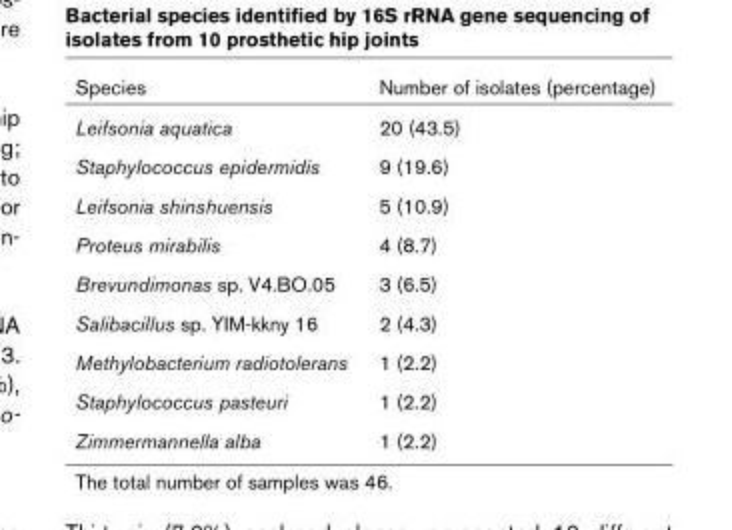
<table><thead><tr><td>Species</td><td>Number of isolates (percentage)</td></tr></thead><tbody><tr><td>Leifsonia aquatica</td><td>20 (43.5)</td></tr><tr><td>Staphylococcus epidermidis</td><td>9 (19.6)</td></tr><tr><td>Leifsonia shinshuensis</td><td>5 (10.9)</td></tr><tr><td>Proteus mirabilis</td><td>4 (8.7)</td></tr><tr><td>Brevundimonas sp. V4.BO.05</td><td>3 (6.5)</td></tr><tr><td>Salibacillus sp. YIM-kkny 16</td><td>2 (4.3)</td></tr><tr><td>Methylobacterium radiotolerans</td><td>1 (2.2)</td></tr><tr><td>Staphylococcus pasteuri</td><td>1 (2.2)</td></tr><tr><td>Zimmermannella alba</td><td>1 (2.2)</td></tr></tbody></table>